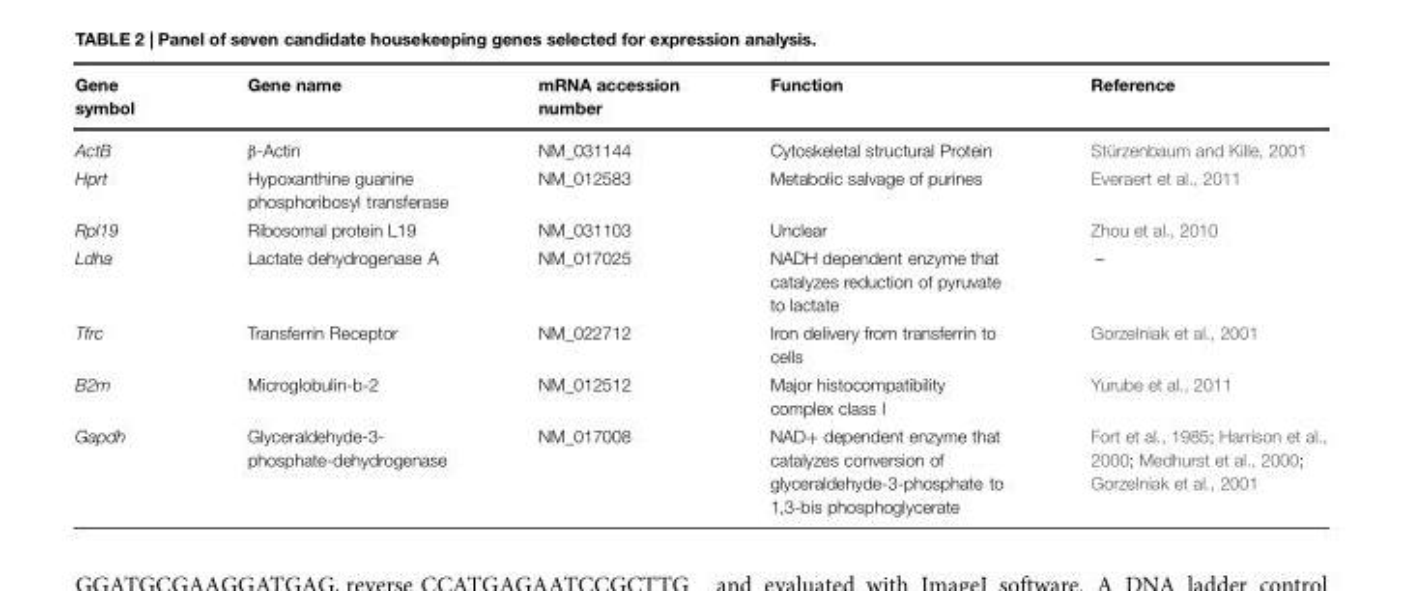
<table><thead><tr><td>Gene symbol</td><td>Gene name</td><td>mRNA accession number</td><td>Function</td><td>Reference</td></tr></thead><tbody><tr><td>ActB</td><td>β-Actin</td><td>NM_031144</td><td>Cytoskeletal structural Protein</td><td>Stürzenbaum and Kille, 2001</td></tr><tr><td>Hprt</td><td>Hypoxanthine guanine phosphoribosyl transferase</td><td>NM_012583</td><td>Metabolic salvage of purines</td><td>Everaert et al., 2011</td></tr><tr><td>Rpl19</td><td>Ribosomal protein L19</td><td>NM_031103</td><td>Unclear</td><td>Zhou et al., 2010</td></tr><tr><td>Ldha</td><td>Lactate dehydrogenase A</td><td>NM_017025</td><td>NADH dependent enzyme that catalyzes reduction of pyruvate to lactate</td><td>–</td></tr><tr><td>Tfrc</td><td>Transferrin Receptor</td><td>NM_022712</td><td>Iron delivery from transferrin to cells</td><td>Gorzelniak et al., 2001</td></tr><tr><td>B2m</td><td>Microglobulin-b-2</td><td>NM_012512</td><td>Major histocompatibility complex class I</td><td>Yurube et al., 2011</td></tr><tr><td>Gapdh</td><td>Glyceraldehyde-3- phosphate-dehydrogenase</td><td>NM_017008</td><td>NAD+ dependent enzyme that catalyzes conversion of glyceraldehyde-3-phosphate to 1,3-bis phosphoglycerate</td><td>Fort et al., 1985; Harrison et al., 2000; Medhurst et al., 2000; Gorzelniak et al., 2001</td></tr></tbody></table>